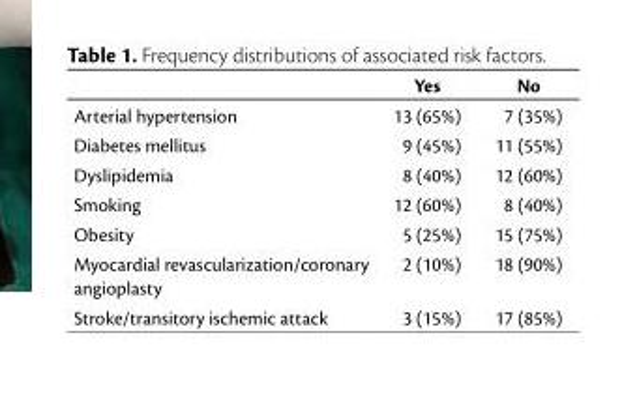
<table><thead><tr><td></td><td>Yes</td><td>No</td></tr></thead><tbody><tr><td>Arterial hypertension</td><td>13 (65%)</td><td>7 (35%)</td></tr><tr><td>Diabetes mellitus</td><td>9 (45%)</td><td>11 (55%)</td></tr><tr><td>Dyslipidemia</td><td>8 (40%)</td><td>12 (60%)</td></tr><tr><td>Smoking</td><td>12 (60%)</td><td>8 (40%)</td></tr><tr><td>Obesity</td><td>5 (25%)</td><td>15 (75%)</td></tr><tr><td>Myocardial revascularization/coronary angioplasty</td><td>2 (10%)</td><td>18 (90%)</td></tr><tr><td>Stroke/transitory ischemic attack</td><td>3 (15%)</td><td>17 (85%)</td></tr></tbody></table>